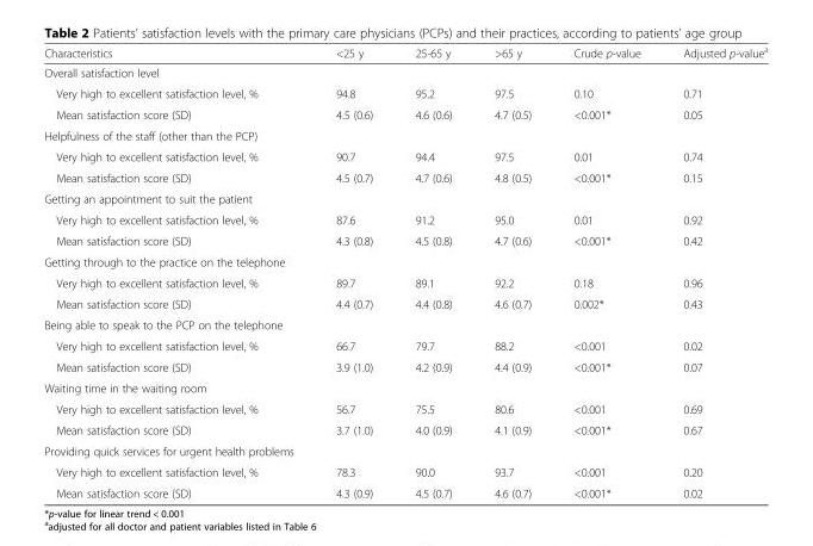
<table><thead><tr><td>Characteristics</td><td>&lt;25 y</td><td>25-65 y</td><td>&gt;65 y</td><td>Crude p-value</td><td>Adjusted p-value<sup>a</sup></td></tr></thead><tbody><tr><td colspan="6">Overall satisfaction level</td></tr><tr><td>Very high to excellent satisfaction level, %</td><td>94.8</td><td>95.2</td><td>97.5</td><td>0.10</td><td>0.71</td></tr><tr><td>Mean satisfaction score (SD)</td><td>4.5 (0.6)</td><td>4.6 (0.6)</td><td>4.7 (0.5)</td><td>&lt;0.001*</td><td>0.05</td></tr><tr><td colspan="6">Helpfulness of the staff (other than the PCP)</td></tr><tr><td>Very high to excellent satisfaction level, %</td><td>90.7</td><td>94.4</td><td>97.5</td><td>0.01</td><td>0.74</td></tr><tr><td>Mean satisfaction score (SD)</td><td>4.5 (0.7)</td><td>4.7 (0.6)</td><td>4.8 (0.5)</td><td>&lt;0.001*</td><td>0.15</td></tr><tr><td colspan="6">Getting an appointment to suit the patient</td></tr><tr><td>Very high to excellent satisfaction level, %</td><td>87.6</td><td>91.2</td><td>95.0</td><td>0.01</td><td>0.92</td></tr><tr><td>Mean satisfaction score (SD)</td><td>4.3 (0.8)</td><td>4.5 (0.8)</td><td>4.7 (0.6)</td><td>&lt;0.001*</td><td>0.42</td></tr><tr><td colspan="6">Getting through to the practice on the telephone</td></tr><tr><td>Very high to excellent satisfaction level, %</td><td>89.7</td><td>89.1</td><td>92.2</td><td>0.18</td><td>0.96</td></tr><tr><td>Mean satisfaction score (SD)</td><td>4.4 (0.7)</td><td>4.4 (0.8)</td><td>4.6 (0.7)</td><td>0.002*</td><td>0.43</td></tr><tr><td colspan="6">Being able to speak to the PCP on the telephone</td></tr><tr><td>Very high to excellent satisfaction level, %</td><td>66.7</td><td>79.7</td><td>88.2</td><td>&lt;0.001</td><td>0.02</td></tr><tr><td>Mean satisfaction score (SD)</td><td>3.9 (1.0)</td><td>4.2 (0.9)</td><td>4.4 (0.9)</td><td>&lt;0.001*</td><td>0.07</td></tr><tr><td colspan="6">Waiting time in the waiting room</td></tr><tr><td>Very high to excellent satisfaction level, %</td><td>56.7</td><td>75.5</td><td>80.6</td><td>&lt;0.001</td><td>0.69</td></tr><tr><td>Mean satisfaction score (SD)</td><td>3.7 (1.0)</td><td>4.0 (0.9)</td><td>4.1 (0.9)</td><td>&lt;0.001*</td><td>0.67</td></tr><tr><td colspan="6">Providing quick services for urgent health problems</td></tr><tr><td>Very high to excellent satisfaction level, %</td><td>78.3</td><td>90.0</td><td>93.7</td><td>&lt;0.001</td><td>0.20</td></tr><tr><td>Mean satisfaction score (SD)</td><td>4.3 (0.9)</td><td>4.5 (0.7)</td><td>4.6 (0.7)</td><td>&lt;0.001*</td><td>0.02</td></tr></tbody></table>